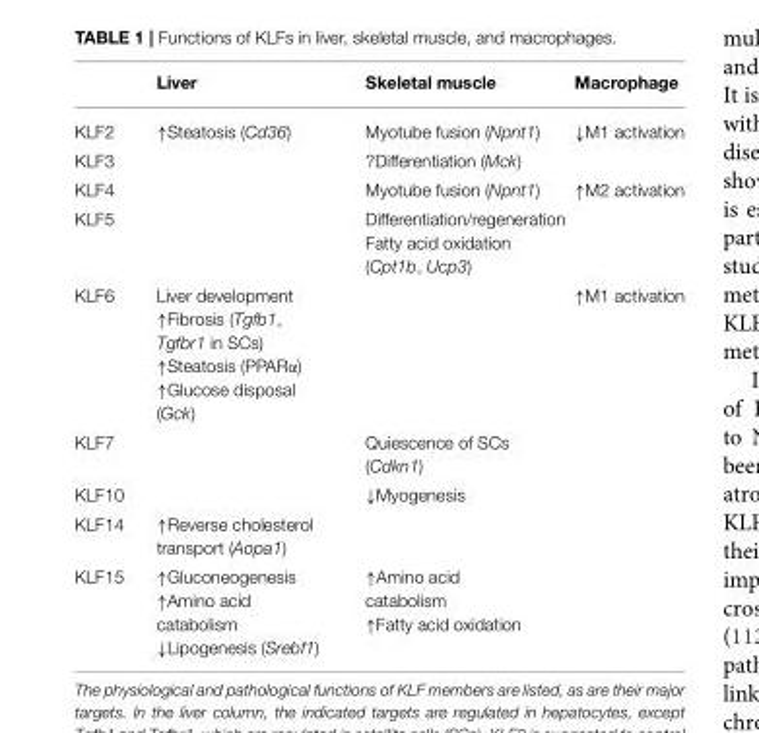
<table><thead><tr><td></td><td>Liver</td><td>Skeletal muscle</td><td>Macrophage</td></tr></thead><tbody><tr><td>KLF2</td><td>↑Steatosis (Cd36)</td><td>Myotube fusion (Npnt1)</td><td>↓M1 activation</td></tr><tr><td>KLF3</td><td></td><td>?Differentiation (Mck)</td><td></td></tr><tr><td>KLF4</td><td></td><td>Myotube fusion (Npnt1)</td><td>↑M2 activation</td></tr><tr><td>KLF5</td><td></td><td>Differentiation/regeneration Fatty acid oxidation (Cpt1b, Ucp3)</td><td></td></tr><tr><td>KLF6</td><td>Liver development ↑Fibrosis (Tgfb1, Tgfbr1 in SCs) ↑Steatosis (PPARα) ↑Glucose disposal (Gck)</td><td></td><td>↑M1 activation</td></tr><tr><td>KLF7</td><td></td><td>Quiescence of SCs (Cdkn1)</td><td></td></tr><tr><td>KLF10</td><td></td><td>↓Myogenesis</td><td></td></tr><tr><td>KLF14</td><td>↑Reverse cholesterol transport (Aopa1)</td><td></td><td></td></tr><tr><td>KLF15</td><td>↑Gluconeogenesis ↑Amino acid catabolism ↓Lipogenesis (Srebf1)</td><td>↑Amino acid catabolism ↑Fatty acid oxidation</td><td></td></tr></tbody></table>